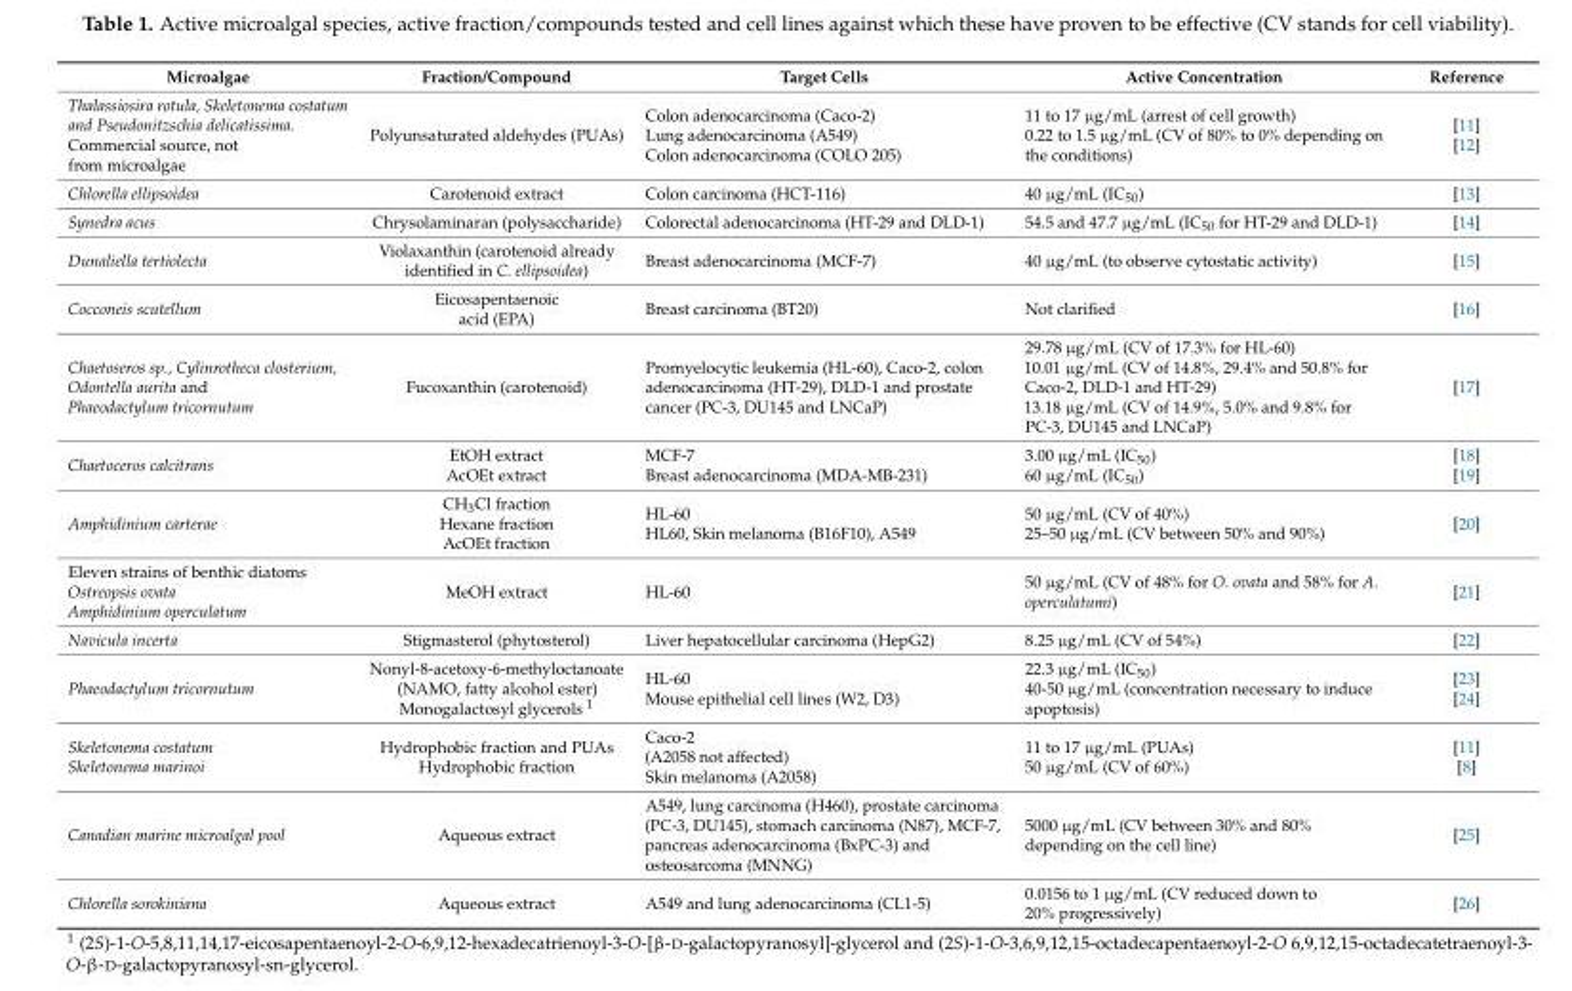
<table><thead><tr><td>Microalgae</td><td>Fraction/Compound</td><td>Target Cells</td><td>Active Concentration</td><td>Reference</td></tr></thead><tbody><tr><td>Thalassiosira rotula, Skeletonema costatum and Pseudonitzschia delicatissima. Commercial source, not from microalgae</td><td>Polyunsaturated aldehydes (PUAs)</td><td>Colon adenocarcinoma (Caco-2) Lung adenocarcinoma (A549) Colon adenocarcinoma (COLO 205)</td><td>11 to 17 µg/mL (arrest of cell growth) 0.22 to 1.5 µg/mL (CV of 80% to 0% depending on the conditions)</td><td>[11] [12]</td></tr><tr><td>Chlorella ellipsoidea</td><td>Carotenoid extract</td><td>Colon carcinoma (HCT-116)</td><td>40 µg/mL (IC<sub>50</sub>)</td><td>[13]</td></tr><tr><td>Synedra acus</td><td>Chrysolaminaran (polysaccharide)</td><td>Colorectal adenocarcinoma (HT-29 and DLD-1)</td><td>54.5 and 47.7 µg/mL (IC<sub>50</sub> for HT-29 and DLD-1)</td><td>[14]</td></tr><tr><td>Dunaliella tertiolecta</td><td>Violaxanthin (carotenoid already identified in C. ellipsoidea)</td><td>Breast adenocarcinoma (MCF-7)</td><td>40 µg/mL (to observe cytostatic activity)</td><td>[15]</td></tr><tr><td>Cocconeis scutellum</td><td>Eicosapentaenoic acid (EPA)</td><td>Breast carcinoma (BT20)</td><td>Not clarified</td><td>[16]</td></tr><tr><td>Chaetoseros sp., Cylinrotheca closterium, Odontella aurita and Phaeodactylum tricornutum</td><td>Fucoxanthin (carotenoid)</td><td>Promyelocytic leukemia (HL-60), Caco-2, colon adenocarcinoma (HT-29), DLD-1 and prostate cancer (PC-3, DU145 and LNCaP)</td><td>29.78 µg/mL (CV of 17.3% for HL-60) 10.01 µg/mL (CV of 14.8%, 29.4% and 50.8% for Caco-2, DLD-1 and HT-29) 13.18 µg/mL (CV of 14.9%, 5.0% and 9.8% for PC-3, DU145 and LNCaP)</td><td>[17]</td></tr><tr><td>Chaetoceros calcitrans</td><td>EtOH extract AcOEt extract</td><td>MCF-7 Breast adenocarcinoma (MDA-MB-231)</td><td>3.00 µg/mL (IC<sub>50</sub>) 60 µg/mL (IC<sub>50</sub>)</td><td>[18] [19]</td></tr><tr><td>Amphidinium carterae</td><td>CH<sub>3</sub>Cl fraction Hexane fraction AcOEt fraction</td><td>HL-60 HL60, Skin melanoma (B16F10), A549</td><td>50 µg/mL (CV of 40%) 25–50 µg/mL (CV between 50% and 90%)</td><td>[20]</td></tr><tr><td>Eleven strains of benthic diatoms Ostreopsis ovata Amphidinium operculatum</td><td>MeOH extract</td><td>HL-60</td><td>50 µg/mL (CV of 48% for O. ovata and 58% for A. operculatumi)</td><td>[21]</td></tr><tr><td>Navicula incerta</td><td>Stigmasterol (phytosterol)</td><td>Liver hepatocellular carcinoma (HepG2)</td><td>8.25 µg/mL (CV of 54%)</td><td>[22]</td></tr><tr><td>Phaeodactylum tricornutum</td><td>Nonyl-8-acetoxy-6-methyloctanoate (NAMO, fatty alcohol ester) Monogalactosyl glycerols <sup>1</sup></td><td>HL-60 Mouse epithelial cell lines (W2, D3)</td><td>22.3 µg/mL (IC<sub>50</sub>) 40-50 µg/mL (concentration necessary to induce apoptosis)</td><td>[23] [24]</td></tr><tr><td>Skeletonema costatum Skeletonema marinoi</td><td>Hydrophobic fraction and PUAs Hydrophobic fraction</td><td>Caco-2 (A2058 not affected) Skin melanoma (A2058)</td><td>11 to 17 µg/mL (PUAs) 50 µg/mL (CV of 60%)</td><td>[11] [8]</td></tr><tr><td>Canadian marine microalgal pool</td><td>Aqueous extract</td><td>A549, lung carcinoma (H460), prostate carcinoma (PC-3, DU145), stomach carcinoma (N87), MCF-7, pancreas adenocarcinoma (BxPC-3) and osteosarcoma (MNNG)</td><td>5000 µg/mL (CV between 30% and 80% depending on the cell line)</td><td>[25]</td></tr><tr><td>Chlorella sorokiniana</td><td>Aqueous extract</td><td>A549 and lung adenocarcinoma (CL1-5)</td><td>0.0156 to 1 µg/mL (CV reduced down to 20% progressively)</td><td>[26]</td></tr></tbody></table>